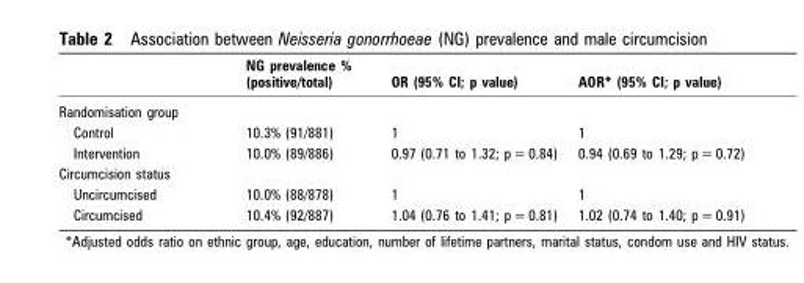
<table><thead><tr><td></td><td>NG prevalence % (positive/total)</td><td>OR (95% CI; p value)</td><td>AOR* (95% CI; p value)</td></tr></thead><tbody><tr><td colspan="4">Randomisation group</td></tr><tr><td>Control</td><td>10.3% (91/881)</td><td>1</td><td>1</td></tr><tr><td>Intervention</td><td>10.0% (89/886)</td><td>0.97 (0.71 to 1.32; p = 0.84)</td><td>0.94 (0.69 to 1.29; p = 0.72)</td></tr><tr><td colspan="4">Circumcision status</td></tr><tr><td>Uncircumcised</td><td>10.0% (88/878)</td><td>1</td><td>1</td></tr><tr><td>Circumcised</td><td>10.4% (92/887)</td><td>1.04 (0.76 to 1.41; p = 0.81)</td><td>1.02 (0.74 to 1.40; p = 0.91)</td></tr></tbody></table>